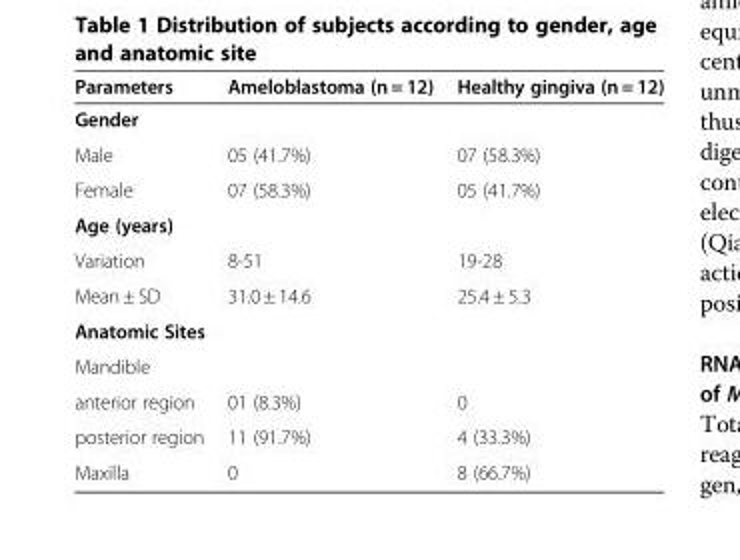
<table><thead><tr><td>Parameters</td><td>Ameloblastoma (n = 12)</td><td>Healthy gingiva (n = 12)</td></tr></thead><tbody><tr><td colspan="3">Gender</td></tr><tr><td>Male</td><td>05 (41.7%)</td><td>07 (58.3%)</td></tr><tr><td>Female</td><td>07 (58.3%)</td><td>05 (41.7%)</td></tr><tr><td colspan="3">Age (years)</td></tr><tr><td>Variation</td><td>8-51</td><td>19-28</td></tr><tr><td>Mean ± SD</td><td>31.0 ± 14.6</td><td>25.4 ± 5.3</td></tr><tr><td colspan="3">Anatomic Sites</td></tr><tr><td colspan="3">Mandible</td></tr><tr><td>anterior region</td><td>01 (8.3%)</td><td>0</td></tr><tr><td>posterior region</td><td>11 (91.7%)</td><td>4 (33.3%)</td></tr><tr><td>Maxilla</td><td>0</td><td>8 (66.7%)</td></tr></tbody></table>